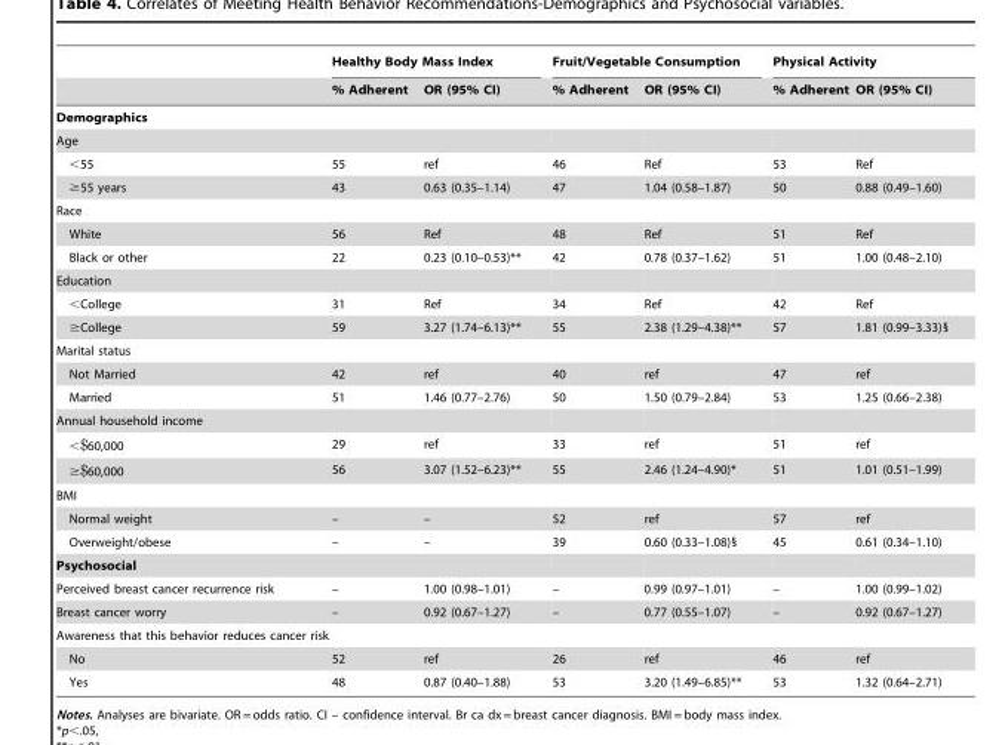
<table><thead><tr><td rowspan="2"></td><td colspan="2">Healthy Body Mass Index</td><td colspan="2">Fruit/Vegetable Consumption</td><td colspan="2">Physical Activity</td></tr><tr><td>% Adherent</td><td>OR (95% CI)</td><td>% Adherent</td><td>OR (95% CI)</td><td>% Adherent</td><td>OR (95% CI)</td></tr></thead><tbody><tr><td colspan="7">Demographics</td></tr><tr><td colspan="7">Age</td></tr><tr><td>&lt;55</td><td>55</td><td>ref</td><td>46</td><td>Ref</td><td>53</td><td>Ref</td></tr><tr><td>≥55 years</td><td>43</td><td>0.63 (0.35–1.14)</td><td>47</td><td>1.04 (0.58–1.87)</td><td>50</td><td>0.88 (0.49–1.60)</td></tr><tr><td colspan="7">Race</td></tr><tr><td>White</td><td>56</td><td>Ref</td><td>48</td><td>Ref</td><td>51</td><td>Ref</td></tr><tr><td>Black or other</td><td>22</td><td>0.23 (0.10–0.53)**</td><td>42</td><td>0.78 (0.37–1.62)</td><td>51</td><td>1.00 (0.48–2.10)</td></tr><tr><td colspan="7">Education</td></tr><tr><td>&lt;College</td><td>31</td><td>Ref</td><td>34</td><td>Ref</td><td>42</td><td>Ref</td></tr><tr><td>≥College</td><td>59</td><td>3.27 (1.74–6.13)**</td><td>55</td><td>2.38 (1.29–4.38)**</td><td>57</td><td>1.81 (0.99–3.33)§</td></tr><tr><td colspan="7">Marital status</td></tr><tr><td>Not Married</td><td>42</td><td>ref</td><td>40</td><td>ref</td><td>47</td><td>ref</td></tr><tr><td>Married</td><td>51</td><td>1.46 (0.77–2.76)</td><td>50</td><td>1.50 (0.79–2.84)</td><td>53</td><td>1.25 (0.66–2.38)</td></tr><tr><td colspan="7">Annual household income</td></tr><tr><td>&lt;$60,000</td><td>29</td><td>ref</td><td>33</td><td>ref</td><td>51</td><td>ref</td></tr><tr><td>≥$60,000</td><td>56</td><td>3.07 (1.52–6.23)**</td><td>55</td><td>2.46 (1.24–4.90)*</td><td>51</td><td>1.01 (0.51–1.99)</td></tr><tr><td colspan="7">BMI</td></tr><tr><td>Normal weight</td><td>–</td><td>–</td><td>52</td><td>ref</td><td>57</td><td>ref</td></tr><tr><td>Overweight/obese</td><td>–</td><td>–</td><td>39</td><td>0.60 (0.33–1.08)§</td><td>45</td><td>0.61 (0.34–1.10)</td></tr><tr><td colspan="7">Psychosocial</td></tr><tr><td>Perceived breast cancer recurrence risk</td><td>–</td><td>1.00 (0.98–1.01)</td><td>–</td><td>0.99 (0.97–1.01)</td><td>–</td><td>1.00 (0.99–1.02)</td></tr><tr><td>Breast cancer worry</td><td>–</td><td>0.92 (0.67–1.27)</td><td>–</td><td>0.77 (0.55–1.07)</td><td>–</td><td>0.92 (0.67–1.27)</td></tr><tr><td colspan="7">Awareness that this behavior reduces cancer risk</td></tr><tr><td>No</td><td>52</td><td>ref</td><td>26</td><td>ref</td><td>46</td><td>ref</td></tr><tr><td>Yes</td><td>48</td><td>0.87 (0.40–1.88)</td><td>53</td><td>3.20 (1.49–6.85)**</td><td>53</td><td>1.32 (0.64–2.71)</td></tr></tbody></table>